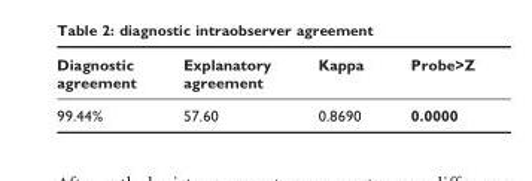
<table><thead><tr><td>Diagnostic agreement</td><td>Explanatory agreement</td><td>Kappa</td><td>Probe&gt;Z</td></tr></thead><tbody><tr><td>99.44%</td><td>57.60</td><td>0.8690</td><td>0.0000</td></tr></tbody></table>